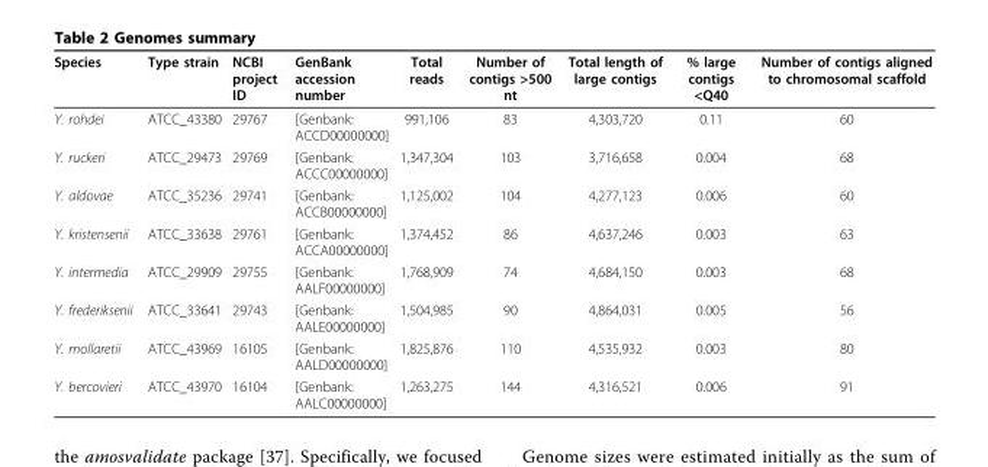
<table><thead><tr><td>Species</td><td>Type strain</td><td>NCBI project ID</td><td>GenBank accession number</td><td>Total reads</td><td>Number of contigs &gt;500 nt</td><td>Total length of large contigs</td><td>% large contigs &lt;Q40</td><td>Number of contigs aligned to chromosomal scaffold</td></tr></thead><tbody><tr><td>Y. rohdei</td><td>ATCC_43380</td><td>29767</td><td>[Genbank: ACCD00000000]</td><td>991,106</td><td>83</td><td>4,303,720</td><td>0.11</td><td>60</td></tr><tr><td>Y. ruckeri</td><td>ATCC_29473</td><td>29769</td><td>[Genbank: ACCC00000000]</td><td>1,347,304</td><td>103</td><td>3,716,658</td><td>0.004</td><td>68</td></tr><tr><td>Y. aldovae</td><td>ATCC_35236</td><td>29741</td><td>[Genbank: ACCB00000000]</td><td>1,125,002</td><td>104</td><td>4,277,123</td><td>0.006</td><td>60</td></tr><tr><td>Y. kristensenii</td><td>ATCC_33638</td><td>29761</td><td>[Genbank: ACCA00000000]</td><td>1,374,452</td><td>86</td><td>4,637,246</td><td>0.003</td><td>63</td></tr><tr><td>Y. intermedia</td><td>ATCC_29909</td><td>29755</td><td>[Genbank: AALF00000000]</td><td>1,768,909</td><td>74</td><td>4,684,150</td><td>0.003</td><td>68</td></tr><tr><td>Y. frederiksenii</td><td>ATCC_33641</td><td>29743</td><td>[Genbank: AALE00000000]</td><td>1,504,985</td><td>90</td><td>4,864,031</td><td>0.005</td><td>56</td></tr><tr><td>Y. mollaretii</td><td>ATCC_43969</td><td>16105</td><td>[Genbank: AALD00000000]</td><td>1,825,876</td><td>110</td><td>4,535,932</td><td>0.003</td><td>80</td></tr><tr><td>Y. bercovieri</td><td>ATCC_43970</td><td>16104</td><td>[Genbank: AALC00000000]</td><td>1,263,275</td><td>144</td><td>4,316,521</td><td>0.006</td><td>91</td></tr></tbody></table>